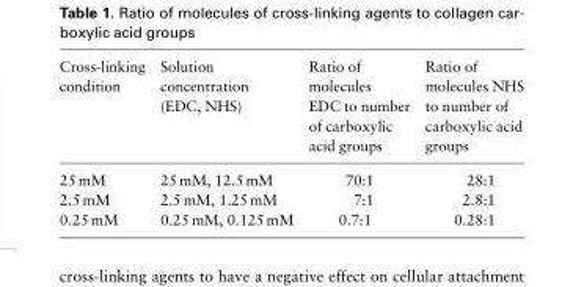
<table><thead><tr><td>Cross-linking condition</td><td>Solution concentration (EDC, NHS)</td><td>Ratio of molecules EDC to number of carboxylic acid groups</td><td>Ratio of molecules NHS to number of carboxylic acid groups</td></tr></thead><tbody><tr><td>25 mM</td><td>25 mM, 12.5 mM</td><td>70:1</td><td>28:1</td></tr><tr><td>2.5 mM</td><td>2.5 mM, 1.25 mM</td><td>7:1</td><td>2.8:1</td></tr><tr><td>0.25 mM</td><td>0.25 mM, 0.125 mM</td><td>0.7:1</td><td>0.28:1</td></tr></tbody></table>